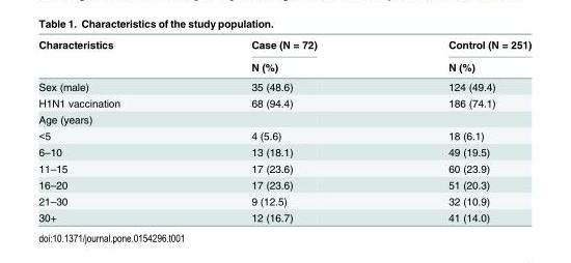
<table><thead><tr><td rowspan="2">Characteristics</td><td rowspan="2">Case (N = 72) N (%)</td><td rowspan="2">Control (N = 251) N (%)</td></tr><tr></tr></thead><tbody><tr><td>Sex (male)</td><td>35 (48.6)</td><td>124 (49.4)</td></tr><tr><td>H1N1 vaccination</td><td>68 (94.4)</td><td>186 (74.1)</td></tr><tr><td colspan="3">Age (years)</td></tr><tr><td>&lt;5</td><td>4 (5.6)</td><td>18 (6.1)</td></tr><tr><td>6–10</td><td>13 (18.1)</td><td>49 (19.5)</td></tr><tr><td>11–15</td><td>17 (23.6)</td><td>60 (23.9)</td></tr><tr><td>16–20</td><td>17 (23.6)</td><td>51 (20.3)</td></tr><tr><td>21–30</td><td>9 (12.5)</td><td>32 (10.9)</td></tr><tr><td>30+</td><td>12 (16.7)</td><td>41 (14.0)</td></tr></tbody></table>